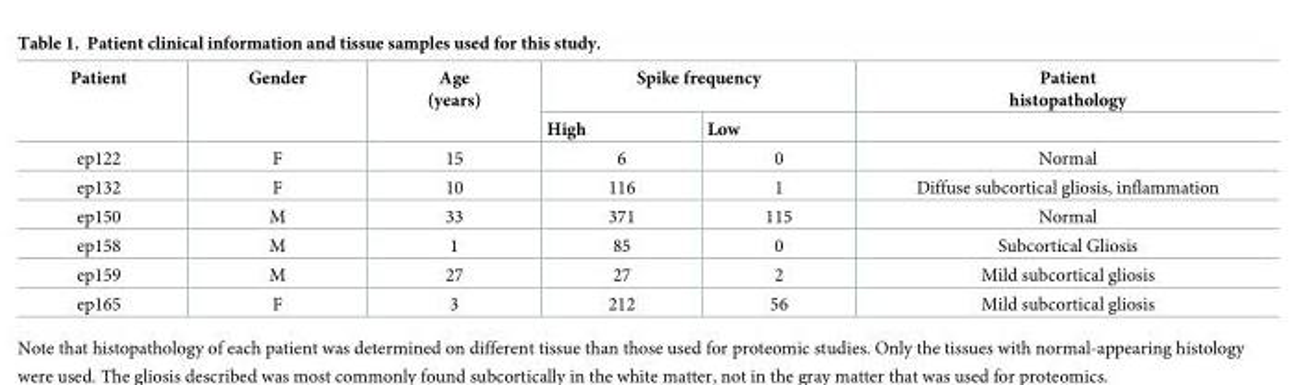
<table><thead><tr><td rowspan="2">Patient</td><td rowspan="2">Gender</td><td rowspan="2">Age (years)</td><td colspan="2">Spike frequency</td><td rowspan="2">Patient histopathology</td></tr><tr><td>High</td><td>Low</td></tr></thead><tbody><tr><td>ep122</td><td>F</td><td>15</td><td>6</td><td>0</td><td>Normal</td></tr><tr><td>ep132</td><td>F</td><td>10</td><td>116</td><td>1</td><td>Diffuse subcortical gliosis, inflammation</td></tr><tr><td>ep150</td><td>M</td><td>33</td><td>371</td><td>115</td><td>Normal</td></tr><tr><td>ep158</td><td>M</td><td>1</td><td>85</td><td>0</td><td>Subcortical Gliosis</td></tr><tr><td>ep159</td><td>M</td><td>27</td><td>27</td><td>2</td><td>Mild subcortical gliosis</td></tr><tr><td>ep165</td><td>F</td><td>3</td><td>212</td><td>56</td><td>Mild subcortical gliosis</td></tr></tbody></table>